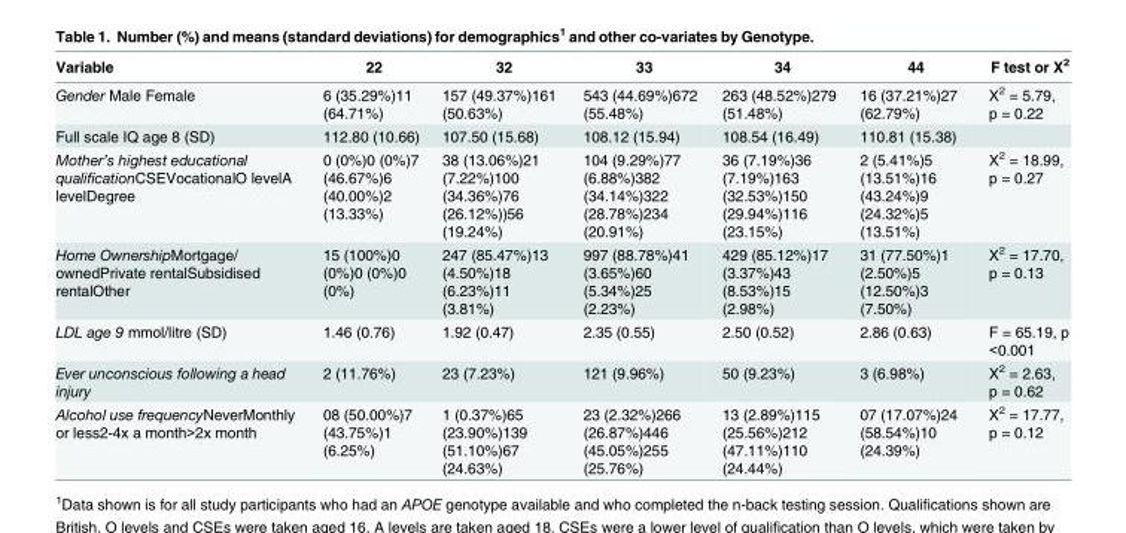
<table><thead><tr><td>Variable</td><td>22</td><td>32</td><td>33</td><td>34</td><td>44</td><td>F test or X<sup>2</sup></td></tr></thead><tbody><tr><td>Gender Male Female</td><td>6 (35.29%)11 (64.71%)</td><td>157 (49.37%)161 (50.63%)</td><td>543 (44.69%)672 (55.48%)</td><td>263 (48.52%)279 (51.48%)</td><td>16 (37.21%)27 (62.79%)</td><td>X<sup>2</sup> = 5.79, p = 0.22</td></tr><tr><td>Full scale IQ age 8 (SD)</td><td>112.80 (10.66)</td><td>107.50 (15.68)</td><td>108.12 (15.94)</td><td>108.54 (16.49)</td><td>110.81 (15.38)</td><td></td></tr><tr><td>Mother’s highest educational qualificationCSEVocationalO levelA levelDegree</td><td>0 (0%)0 (0%)7 (46.67%)6 (40.00%)2 (13.33%)</td><td>38 (13.06%)21 (7.22%)100 (34.36%)76 (26.12%))56 (19.24%)</td><td>104 (9.29%)77 (6.88%)382 (34.14%)322 (28.78%)234 (20.91%)</td><td>36 (7.19%)36 (7.19%)163 (32.53%)150 (29.94%)116 (23.15%)</td><td>2 (5.41%)5 (13.51%)16 (43.24%)9 (24.32%)5 (13.51%)</td><td>X<sup>2</sup> = 18.99, p = 0.27</td></tr><tr><td>Home OwnershipMortgage/ ownedPrivate rentalSubsidised rentalOther</td><td>15 (100%)0 (0%)0 (0%)0 (0%)</td><td>247 (85.47%)13 (4.50%)18 (6.23%)11 (3.81%)</td><td>997 (88.78%)41 (3.65%)60 (5.34%)25 (2.23%)</td><td>429 (85.12%)17 (3.37%)43 (8.53%)15 (2.98%)</td><td>31 (77.50%)1 (2.50%)5 (12.50%)3 (7.50%)</td><td>X<sup>2</sup> = 17.70, p = 0.13</td></tr><tr><td>LDL age 9 mmol/litre (SD)</td><td>1.46 (0.76)</td><td>1.92 (0.47)</td><td>2.35 (0.55)</td><td>2.50 (0.52)</td><td>2.86 (0.63)</td><td>F = 65.19, p &lt;0.001</td></tr><tr><td>Ever unconscious following a head injury</td><td>2 (11.76%)</td><td>23 (7.23%)</td><td>121 (9.96%)</td><td>50 (9.23%)</td><td>3 (6.98%)</td><td>X<sup>2</sup> = 2.63, p = 0.62</td></tr><tr><td>Alcohol use frequencyNeverMonthly or less2-4x a month&gt;2x month</td><td>08 (50.00%)7 (43.75%)1 (6.25%)</td><td>1 (0.37%)65 (23.90%)139 (51.10%)67 (24.63%)</td><td>23 (2.32%)266 (26.87%)446 (45.05%)255 (25.76%)</td><td>13 (2.89%)115 (25.56%)212 (47.11%)110 (24.44%)</td><td>07 (17.07%)24 (58.54%)10 (24.39%)</td><td>X<sup>2</sup> = 17.77, p = 0.12</td></tr></tbody></table>